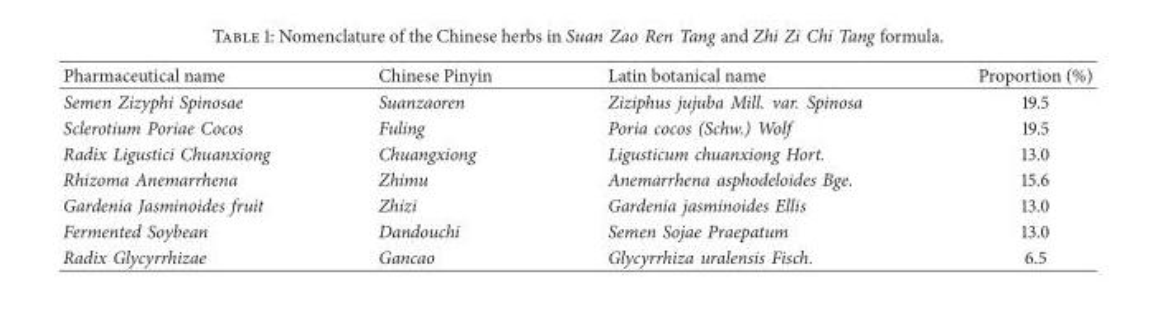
<table><thead><tr><td>Pharmaceutical name</td><td>Chinese Pinyin</td><td>Latin botanical name</td><td>Proportion (%)</td></tr></thead><tbody><tr><td>Semen Zizyphi Spinosae</td><td>Suanzaoren</td><td>Ziziphus jujuba Mill. var. Spinosa</td><td>19.5</td></tr><tr><td>Sclerotium Poriae Cocos</td><td>Fuling</td><td>Poria cocos (Schw.) Wolf</td><td>19.5</td></tr><tr><td>Radix Ligustici Chuanxiong</td><td>Chuangxiong</td><td>Ligusticum chuanxiong Hort.</td><td>13.0</td></tr><tr><td>Rhizoma Anemarrhena</td><td>Zhimu</td><td>Anemarrhena asphodeloides Bge.</td><td>15.6</td></tr><tr><td>Gardenia Jasminoides fruit</td><td>Zhizi</td><td>Gardenia jasminoides Ellis</td><td>13.0</td></tr><tr><td>Fermented Soybean</td><td>Dandouchi</td><td>Semen Sojae Praepatum</td><td>13.0</td></tr><tr><td>Radix Glycyrrhizae</td><td>Gancao</td><td>Glycyrrhiza uralensis Fisch.</td><td>6.5</td></tr></tbody></table>